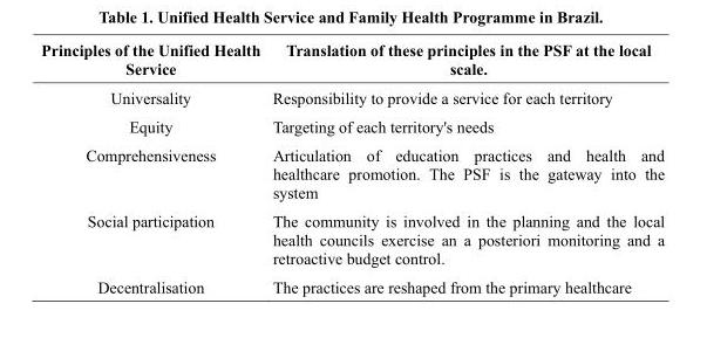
<table><thead><tr><td>Principles of the Unified Health Service</td><td>Translation of these principles in the PSF at the local scale.</td></tr></thead><tbody><tr><td>Universality</td><td>Responsibility to provide a service for each territory</td></tr><tr><td>Equity</td><td>Targeting of each territory&#x27;s needs</td></tr><tr><td>Comprehensiveness</td><td>Articulation of education practices and health and healthcare promotion. The PSF is the gateway into the system</td></tr><tr><td>Social participation</td><td>The community is involved in the planning and the local health councils exercise an a posteriori monitoring and a retroactive budget control.</td></tr><tr><td>Decentralisation</td><td>The practices are reshaped from the primary healthcare</td></tr></tbody></table>